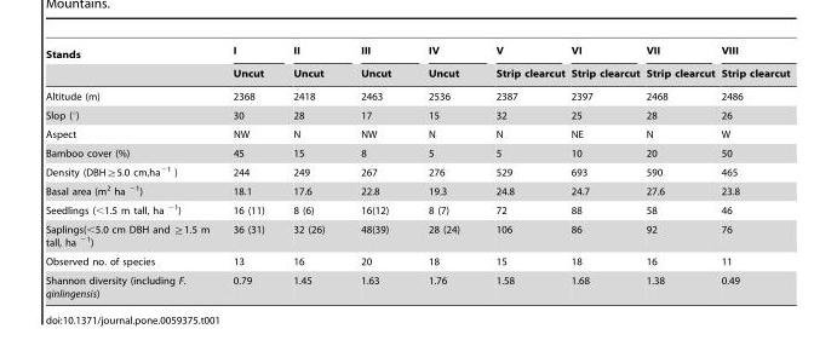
<table><thead><tr><td rowspan="2">Stands</td><td rowspan="2">I Uncut</td><td rowspan="2">II Uncut</td><td rowspan="2">III Uncut</td><td rowspan="2">IV Uncut</td><td rowspan="2">V Strip clearcut</td><td rowspan="2">VI Strip clearcut</td><td rowspan="2">VII Strip clearcut</td><td rowspan="2">VIII Strip clearcut</td></tr><tr></tr></thead><tbody><tr><td>Altitude (m)</td><td>2368</td><td>2418</td><td>2463</td><td>2536</td><td>2387</td><td>2397</td><td>2468</td><td>2486</td></tr><tr><td>Slop (°)</td><td>30</td><td>28</td><td>17</td><td>15</td><td>32</td><td>25</td><td>28</td><td>26</td></tr><tr><td>Aspect</td><td>NW</td><td>N</td><td>NW</td><td>N</td><td>N</td><td>NE</td><td>N</td><td>W</td></tr><tr><td>Bamboo cover (%)</td><td>45</td><td>15</td><td>8</td><td>5</td><td>5</td><td>10</td><td>20</td><td>50</td></tr><tr><td>Density (DBH≧5.0 cm,ha<sup>−1</sup> )</td><td>244</td><td>249</td><td>267</td><td>276</td><td>529</td><td>693</td><td>590</td><td>465</td></tr><tr><td>Basal area (m<sup>2</sup> ha <sup>−1</sup>)</td><td>18.1</td><td>17.6</td><td>22.8</td><td>19.3</td><td>24.8</td><td>24.7</td><td>27.6</td><td>23.8</td></tr><tr><td>Seedlings (&lt;1.5 m tall, ha <sup>−1</sup>)</td><td>16 (11)</td><td>8 (6)</td><td>16(12)</td><td>8 (7)</td><td>72</td><td>88</td><td>58</td><td>46</td></tr><tr><td>Saplings(&lt;5.0 cm DBH and ≧1.5 m tall, ha <sup>−1</sup>)</td><td>36 (31)</td><td>32 (26)</td><td>48(39)</td><td>28 (24)</td><td>106</td><td>86</td><td>92</td><td>76</td></tr><tr><td>Observed no. of species</td><td>13</td><td>16</td><td>20</td><td>18</td><td>15</td><td>18</td><td>16</td><td>11</td></tr><tr><td>Shannon diversity (including F. qinlingensis)</td><td>0.79</td><td>1.45</td><td>1.63</td><td>1.76</td><td>1.58</td><td>1.68</td><td>1.38</td><td>0.49</td></tr></tbody></table>